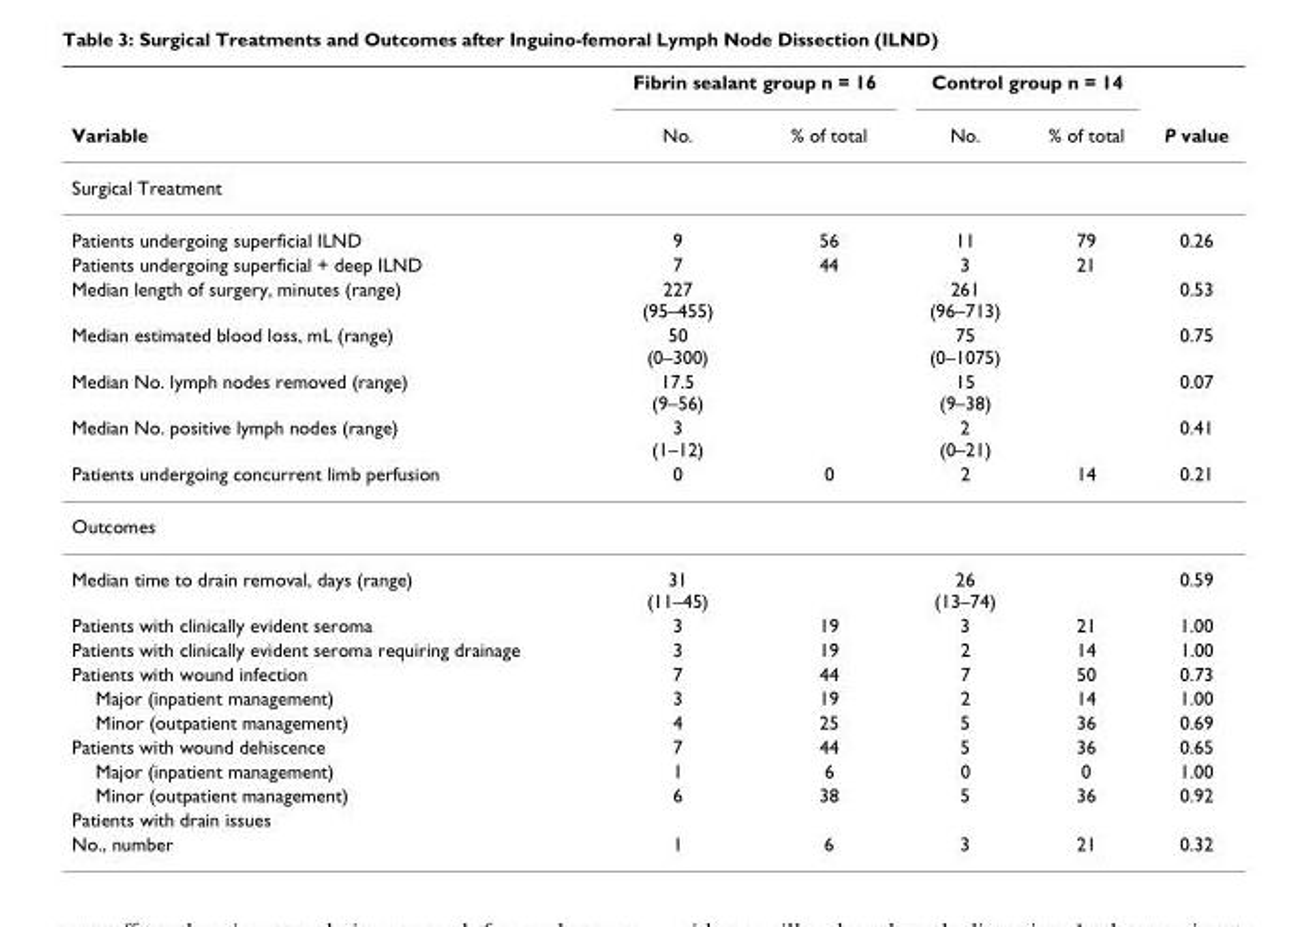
<table><thead><tr><td rowspan="2">Variable</td><td colspan="2">Fibrin sealant group n = 16</td><td colspan="2">Control group n = 14</td><td rowspan="2">P value</td></tr><tr><td>No.</td><td>% of total</td><td>No.</td><td>% of total</td></tr></thead><tbody><tr><td colspan="6">Surgical Treatment</td></tr><tr><td>Patients undergoing superficial ILND</td><td>9</td><td>56</td><td>11</td><td>79</td><td>0.26</td></tr><tr><td>Patients undergoing superficial + deep ILND</td><td>7</td><td>44</td><td>3</td><td>21</td><td></td></tr><tr><td>Median length of surgery, minutes (range)</td><td>227 (95–455)</td><td></td><td>261 (96–713)</td><td></td><td>0.53</td></tr><tr><td>Median estimated blood loss, mL (range)</td><td>50 (0–300)</td><td></td><td>75 (0–1075)</td><td></td><td>0.75</td></tr><tr><td>Median No. lymph nodes removed (range)</td><td>17.5 (9–56)</td><td></td><td>15 (9–38)</td><td></td><td>0.07</td></tr><tr><td>Median No. positive lymph nodes (range)</td><td>3 (1–12)</td><td></td><td>2 (0–21)</td><td></td><td>0.41</td></tr><tr><td>Patients undergoing concurrent limb perfusion</td><td>0</td><td>0</td><td>2</td><td>14</td><td>0.21</td></tr><tr><td colspan="6">Outcomes</td></tr><tr><td>Median time to drain removal, days (range)</td><td>31 (11–45)</td><td></td><td>26 (13–74)</td><td></td><td>0.59</td></tr><tr><td>Patients with clinically evident seroma</td><td>3</td><td>19</td><td>3</td><td>21</td><td>1.00</td></tr><tr><td>Patients with clinically evident seroma requiring drainage</td><td>3</td><td>19</td><td>2</td><td>14</td><td>1.00</td></tr><tr><td>Patients with wound infection</td><td>7</td><td>44</td><td>7</td><td>50</td><td>0.73</td></tr><tr><td>Major (inpatient management)</td><td>3</td><td>19</td><td>2</td><td>14</td><td>1.00</td></tr><tr><td>Minor (outpatient management)</td><td>4</td><td>25</td><td>5</td><td>36</td><td>0.69</td></tr><tr><td>Patients with wound dehiscence</td><td>7</td><td>44</td><td>5</td><td>36</td><td>0.65</td></tr><tr><td>Major (inpatient management)</td><td>1</td><td>6</td><td>0</td><td>0</td><td>1.00</td></tr><tr><td>Minor (outpatient management)</td><td>6</td><td>38</td><td>5</td><td>36</td><td>0.92</td></tr><tr><td colspan="6">Patients with drain issues</td></tr><tr><td>No., number</td><td>1</td><td>6</td><td>3</td><td>21</td><td>0.32</td></tr></tbody></table>